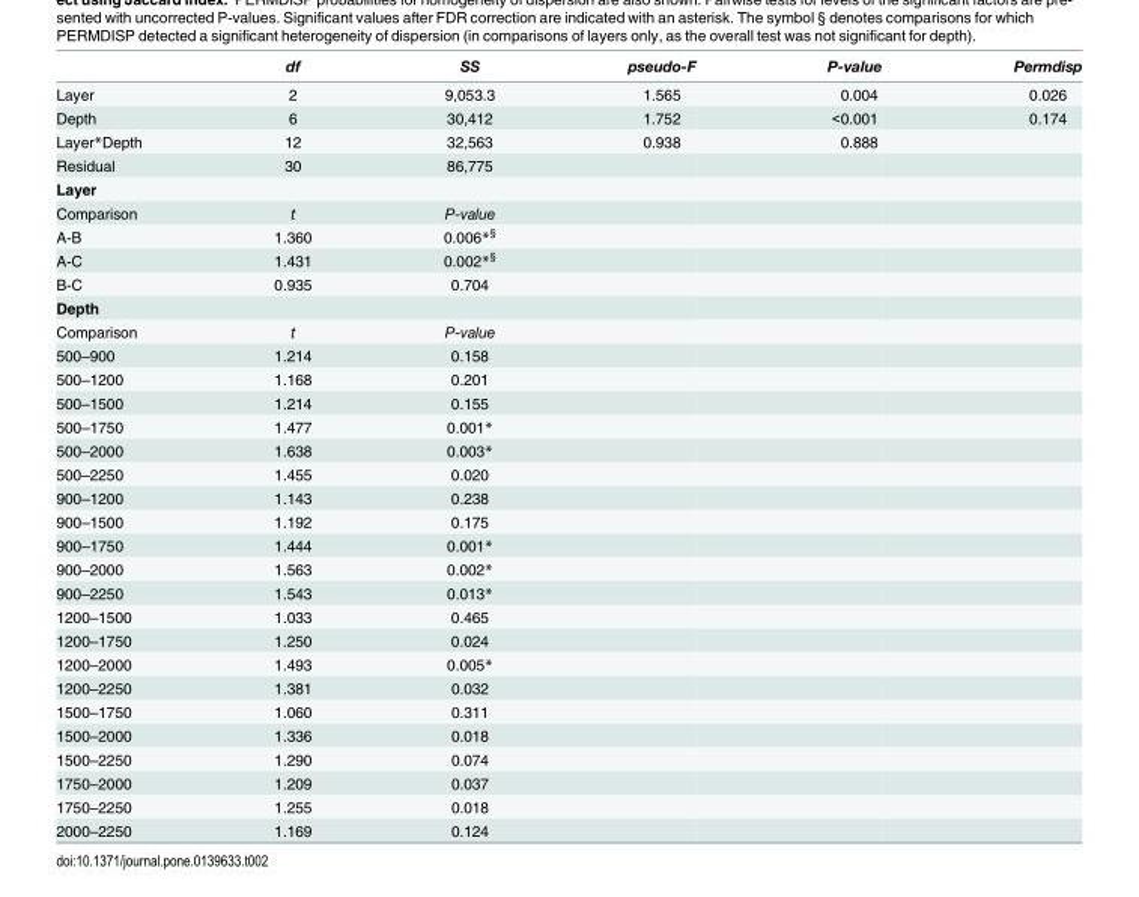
<table><thead><tr><td></td><td>df</td><td>SS</td><td>pseudo-F</td><td>P-value</td><td>Permdisp</td></tr></thead><tbody><tr><td>Layer</td><td>2</td><td>9,053.3</td><td>1.565</td><td>0.004</td><td>0.026</td></tr><tr><td>Depth</td><td>6</td><td>30,412</td><td>1.752</td><td>&lt;0.001</td><td>0.174</td></tr><tr><td>Layer*Depth</td><td>12</td><td>32,563</td><td>0.938</td><td>0.888</td><td></td></tr><tr><td>Residual</td><td>30</td><td>86,775</td><td></td><td></td><td></td></tr><tr><td colspan="6">Layer</td></tr><tr><td>Comparison</td><td>t</td><td>P-value</td><td></td><td></td><td></td></tr><tr><td>A-B</td><td>1.360</td><td>0.006*<sup>§</sup></td><td></td><td></td><td></td></tr><tr><td>A-C</td><td>1.431</td><td>0.002*<sup>§</sup></td><td></td><td></td><td></td></tr><tr><td>B-C</td><td>0.935</td><td>0.704</td><td></td><td></td><td></td></tr><tr><td colspan="6">Depth</td></tr><tr><td>Comparison</td><td>t</td><td>P-value</td><td></td><td></td><td></td></tr><tr><td>500–900</td><td>1.214</td><td>0.158</td><td></td><td></td><td></td></tr><tr><td>500–1200</td><td>1.168</td><td>0.201</td><td></td><td></td><td></td></tr><tr><td>500–1500</td><td>1.214</td><td>0.155</td><td></td><td></td><td></td></tr><tr><td>500–1750</td><td>1.477</td><td>0.001*</td><td></td><td></td><td></td></tr><tr><td>500–2000</td><td>1.638</td><td>0.003*</td><td></td><td></td><td></td></tr><tr><td>500–2250</td><td>1.455</td><td>0.020</td><td></td><td></td><td></td></tr><tr><td>900–1200</td><td>1.143</td><td>0.238</td><td></td><td></td><td></td></tr><tr><td>900–1500</td><td>1.192</td><td>0.175</td><td></td><td></td><td></td></tr><tr><td>900–1750</td><td>1.444</td><td>0.001*</td><td></td><td></td><td></td></tr><tr><td>900–2000</td><td>1.563</td><td>0.002*</td><td></td><td></td><td></td></tr><tr><td>900–2250</td><td>1.543</td><td>0.013*</td><td></td><td></td><td></td></tr><tr><td>1200–1500</td><td>1.033</td><td>0.465</td><td></td><td></td><td></td></tr><tr><td>1200–1750</td><td>1.250</td><td>0.024</td><td></td><td></td><td></td></tr><tr><td>1200–2000</td><td>1.493</td><td>0.005*</td><td></td><td></td><td></td></tr><tr><td>1200–2250</td><td>1.381</td><td>0.032</td><td></td><td></td><td></td></tr><tr><td>1500–1750</td><td>1.060</td><td>0.311</td><td></td><td></td><td></td></tr><tr><td>1500–2000</td><td>1.336</td><td>0.018</td><td></td><td></td><td></td></tr><tr><td>1500–2250</td><td>1.290</td><td>0.074</td><td></td><td></td><td></td></tr><tr><td>1750–2000</td><td>1.209</td><td>0.037</td><td></td><td></td><td></td></tr><tr><td>1750–2250</td><td>1.255</td><td>0.018</td><td></td><td></td><td></td></tr><tr><td>2000–2250</td><td>1.169</td><td>0.124</td><td></td><td></td><td></td></tr></tbody></table>